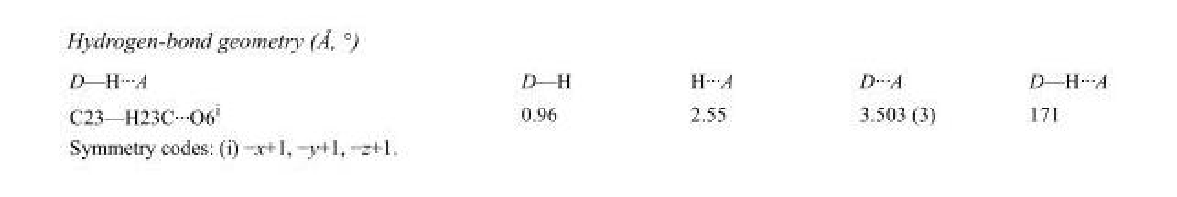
<table><tbody><tr><td>D—H···A</td><td>D—H</td><td>H···A</td><td>D···A</td><td>D—H···A</td></tr><tr><td>C23—H23C···O6<sup>i</sup></td><td>0.96</td><td>2.55</td><td>3.503 (3)</td><td>171</td></tr></tbody></table>